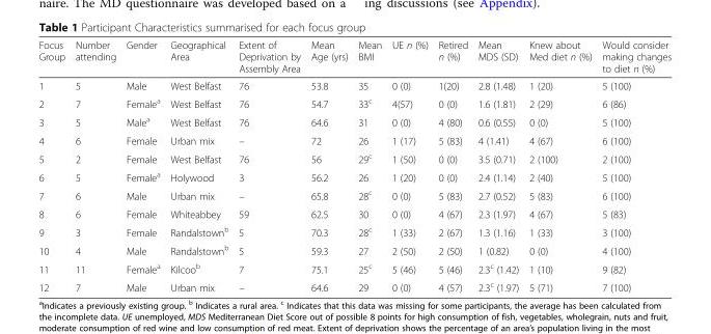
<table><thead><tr><td>Focus Group</td><td>Number attending</td><td>Gender</td><td>Geographical Area</td><td>Extent of Deprivation by Assembly Area</td><td>Mean Age (yrs)</td><td>Mean BMI</td><td>UE n (%)</td><td>Retired n (%)</td><td>Mean MDS (SD)</td><td>Knew about Med diet n (%)</td><td>Would consider making changes to diet n (%)</td></tr></thead><tbody><tr><td>1</td><td>5</td><td>Male</td><td>West Belfast</td><td>76</td><td>53.8</td><td>35</td><td>0 (0)</td><td>1(20)</td><td>2.8 (1.48)</td><td>1 (20)</td><td>5 (100)</td></tr><tr><td>2</td><td>7</td><td>Female<sup>a</sup></td><td>West Belfast</td><td>76</td><td>54.7</td><td>33<sup>c</sup></td><td>4(57)</td><td>0 (0)</td><td>1.6 (1.81)</td><td>2 (29)</td><td>6 (86)</td></tr><tr><td>3</td><td>5</td><td>Male<sup>a</sup></td><td>West Belfast</td><td>76</td><td>64.6</td><td>31</td><td>0 (0)</td><td>4 (80)</td><td>0.6 (0.55)</td><td>0 (0)</td><td>5 (100)</td></tr><tr><td>4</td><td>6</td><td>Female</td><td>Urban mix</td><td>–</td><td>72</td><td>26</td><td>1 (17)</td><td>5 (83)</td><td>4 (1.41)</td><td>4 (67)</td><td>6 (100)</td></tr><tr><td>5</td><td>2</td><td>Female</td><td>West Belfast</td><td>76</td><td>56</td><td>29<sup>c</sup></td><td>1 (50)</td><td>0 (0)</td><td>3.5 (0.71)</td><td>2 (100)</td><td>2 (100)</td></tr><tr><td>6</td><td>5</td><td>Female<sup>a</sup></td><td>Holywood</td><td>3</td><td>56.2</td><td>26</td><td>1 (20)</td><td>0 (0)</td><td>2.4 (1.14)</td><td>2 (40)</td><td>5 (100)</td></tr><tr><td>7</td><td>6</td><td>Male</td><td>Urban mix</td><td>–</td><td>65.8</td><td>28<sup>c</sup></td><td>0 (0)</td><td>5 (83)</td><td>2.7 (0.52)</td><td>5 (83)</td><td>6 (100)</td></tr><tr><td>8</td><td>6</td><td>Female</td><td>Whiteabbey</td><td>59</td><td>62.5</td><td>30</td><td>0 (0)</td><td>4 (67)</td><td>2.3 (1.97)</td><td>4 (67)</td><td>5 (83)</td></tr><tr><td>9</td><td>3</td><td>Female</td><td>Randalstown<sup>b</sup></td><td>5</td><td>70.3</td><td>28<sup>c</sup></td><td>1 (33)</td><td>2 (67)</td><td>1.3 (1.16)</td><td>1 (33)</td><td>3 (100)</td></tr><tr><td>10</td><td>4</td><td>Male</td><td>Randalstown<sup>b</sup></td><td>5</td><td>59.3</td><td>27</td><td>2 (50)</td><td>2 (50)</td><td>1 (0.82)</td><td>0 (0)</td><td>4 (100)</td></tr><tr><td>11</td><td>11</td><td>Female<sup>a</sup></td><td>Kilcoo<sup>b</sup></td><td>7</td><td>75.1</td><td>25<sup>c</sup></td><td>5 (46)</td><td>5 (46)</td><td>2.3<sup>c</sup> (1.42)</td><td>1 (10)</td><td>9 (82)</td></tr><tr><td>12</td><td>7</td><td>Male</td><td>Urban mix</td><td>–</td><td>64.6</td><td>29</td><td>0 (0)</td><td>4 (57)</td><td>2.3<sup>c</sup> (1.97)</td><td>5 (71)</td><td>7 (100)</td></tr></tbody></table>